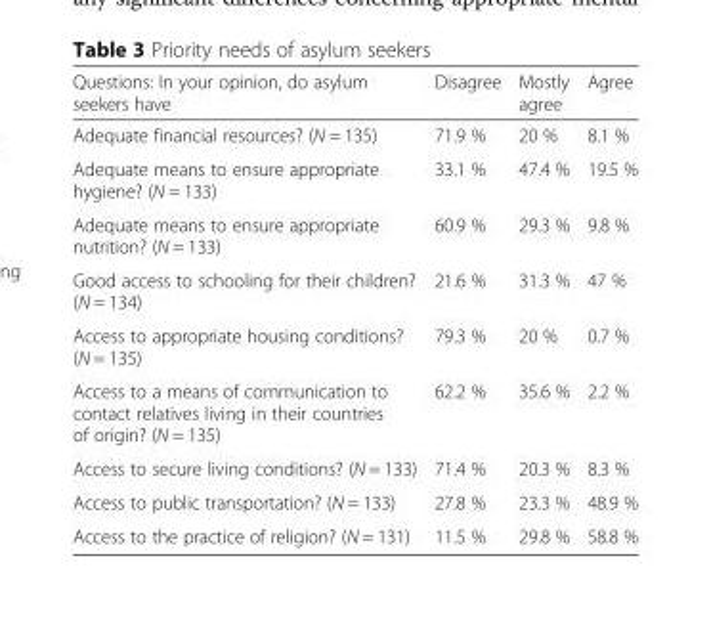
<table><thead><tr><td>Questions: In your opinion, do asylum seekers have</td><td>Disagree</td><td>Mostly agree</td><td>Agree</td></tr></thead><tbody><tr><td>Adequate financial resources? (N = 135)</td><td>71.9 %</td><td>20 %</td><td>8.1 %</td></tr><tr><td>Adequate means to ensure appropriate hygiene? (N = 133)</td><td>33.1 %</td><td>47.4 %</td><td>19.5 %</td></tr><tr><td>Adequate means to ensure appropriate nutrition? (N = 133)</td><td>60.9 %</td><td>29.3 %</td><td>9.8 %</td></tr><tr><td>Good access to schooling for their children? (N = 134)</td><td>21.6 %</td><td>31.3 %</td><td>47 %</td></tr><tr><td>Access to appropriate housing conditions? (N = 135)</td><td>79.3 %</td><td>20 %</td><td>0.7 %</td></tr><tr><td>Access to a means of communication to contact relatives living in their countries of origin? (N = 135)</td><td>62.2 %</td><td>35.6 %</td><td>2.2 %</td></tr><tr><td>Access to secure living conditions? (N = 133)</td><td>71.4 %</td><td>20.3 %</td><td>8.3 %</td></tr><tr><td>Access to public transportation? (N = 133)</td><td>27.8 %</td><td>23.3 %</td><td>48.9 %</td></tr><tr><td>Access to the practice of religion? (N = 131)</td><td>11.5 %</td><td>29.8 %</td><td>58.8 %</td></tr></tbody></table>